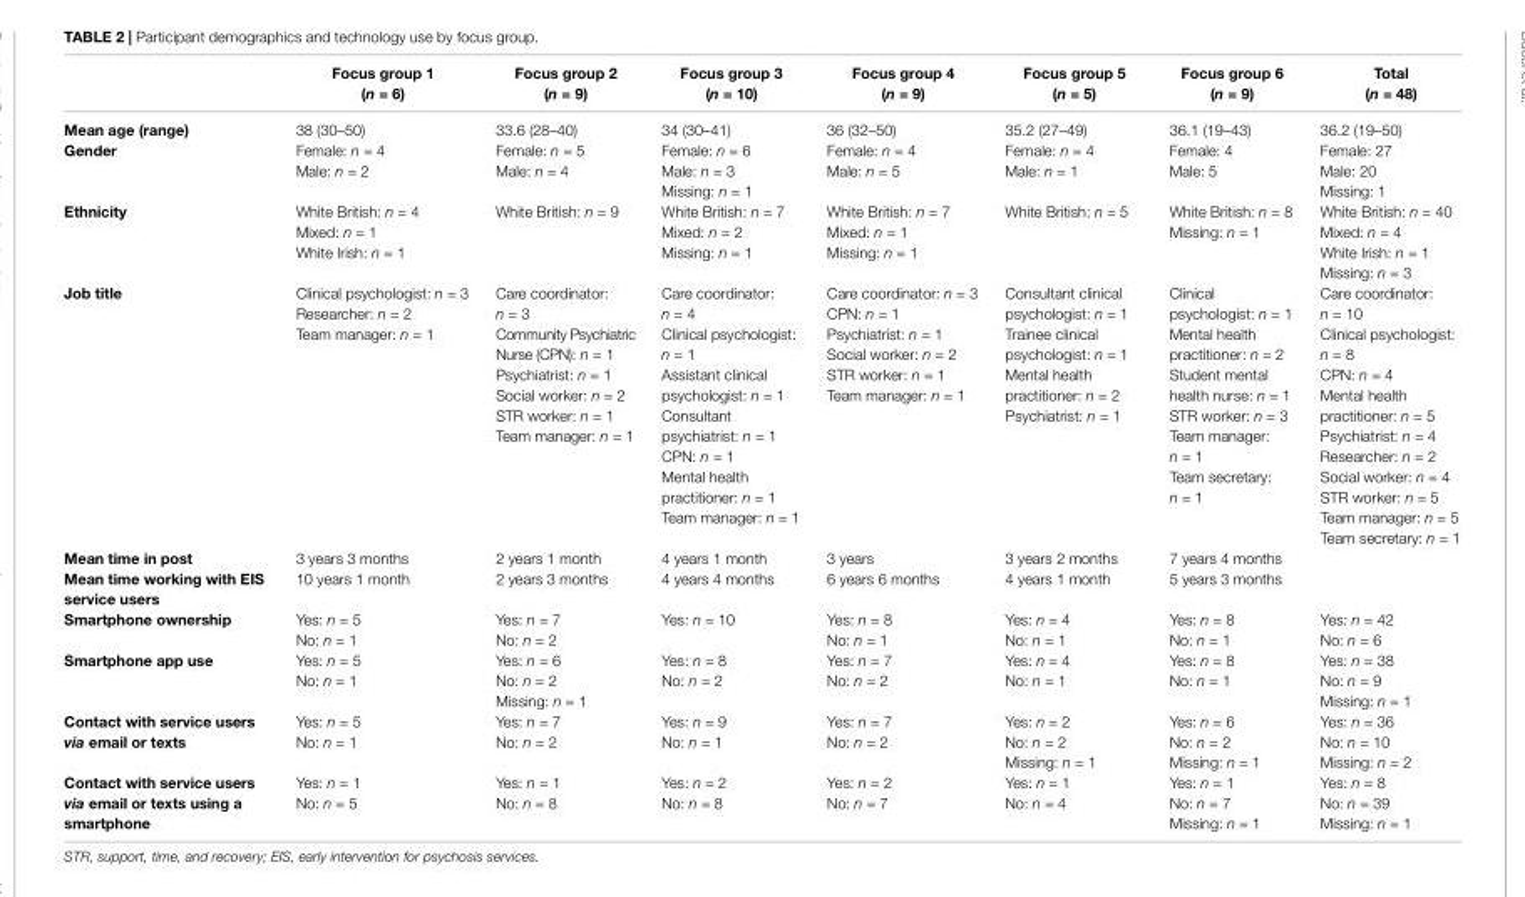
<table><thead><tr><td></td><td>Focus group 1 (n = 6)</td><td>Focus group 2 (n = 9)</td><td>Focus group 3 (n = 10)</td><td>Focus group 4 (n = 9)</td><td>Focus group 5 (n = 5)</td><td>Focus group 6 (n = 9)</td><td>Total (n = 48)</td></tr></thead><tbody><tr><td>Mean age (range)</td><td>38 (30–50)</td><td>33.6 (28–40)</td><td>34 (30–41)</td><td>36 (32–50)</td><td>35.2 (27–49)</td><td>36.1 (19–43)</td><td>36.2 (19–50)</td></tr><tr><td>Gender</td><td>Female: n = 4 Male: n = 2</td><td>Female: n = 5 Male: n = 4</td><td>Female: n = 6 Male: n = 3 Missing: n = 1</td><td>Female: n = 4 Male: n = 5</td><td>Female: n = 4 Male: n = 1</td><td>Female: 4 Male: 5</td><td>Female: 27 Male: 20 Missing: 1</td></tr><tr><td>Ethnicity</td><td>White British: n = 4 Mixed: n = 1 White Irish: n = 1</td><td>White British: n = 9</td><td>White British: n = 7 Mixed: n = 2 Missing: n = 1</td><td>White British: n = 7 Mixed: n = 1 Missing: n = 1</td><td>White British: n = 5</td><td>White British: n = 8 Missing: n = 1</td><td>White British: n = 40 Mixed: n = 4 White Irish: n = 1 Missing: n = 3</td></tr><tr><td>Job title</td><td>Clinical psychologist: n = 3 Researcher: n = 2 Team manager: n = 1</td><td>Care coordinator: n = 3 Community Psychiatric Nurse (CPN): n = 1 Psychiatrist: n = 1 Social worker: n = 2 STR worker: n = 1 Team manager: n = 1</td><td>Care coordinator: n = 4 Clinical psychologist: n = 1 Assistant clinical psychologist: n = 1 Consultant psychiatrist: n = 1 CPN: n = 1 Mental health practitioner: n = 1 Team manager: n = 1</td><td>Care coordinator: n = 3 CPN: n = 1 Psychiatrist: n = 1 Social worker: n = 2 STR worker: n = 1 Team manager: n = 1</td><td>Consultant clinical psychologist: n = 1 Trainee clinical psychologist: n = 1 Mental health practitioner: n = 2 Psychiatrist: n = 1</td><td>Clinical psychologist: n = 1 Mental health practitioner: n = 2 Student mental health nurse: n = 1 STR worker: n = 3 Team manager: n = 1 Team secretary: n = 1</td><td>Care coordinator: n = 10 Clinical psychologist: n = 8 CPN: n = 4 Mental health practitioner: n = 5 Psychiatrist: n = 4 Researcher: n = 2 Social worker: n = 4 STR worker: n = 5 Team manager: n = 5 Team secretary: n = 1</td></tr><tr><td>Mean time in post</td><td>3 years 3 months</td><td>2 years 1 month</td><td>4 years 1 month</td><td>3 years</td><td>3 years 2 months</td><td>7 years 4 months</td><td></td></tr><tr><td>Mean time working with EIS service users</td><td>10 years 1 month</td><td>2 years 3 months</td><td>4 years 4 months</td><td>6 years 6 months</td><td>4 years 1 month</td><td>5 years 3 months</td><td></td></tr><tr><td>Smartphone ownership</td><td>Yes: n = 5 No: n = 1</td><td>Yes: n = 7 No: n = 2</td><td>Yes: n = 10</td><td>Yes: n = 8 No: n = 1</td><td>Yes: n = 4 No: n = 1</td><td>Yes: n = 8 No: n = 1</td><td>Yes: n = 42 No: n = 6</td></tr><tr><td>Smartphone app use</td><td>Yes: n = 5 No: n = 1</td><td>Yes: n = 6 No: n = 2 Missing: n = 1</td><td>Yes: n = 8 No: n = 2</td><td>Yes: n = 7 No: n = 2</td><td>Yes: n = 4 No: n = 1</td><td>Yes: n = 8 No: n = 1</td><td>Yes: n = 38 No: n = 9 Missing: n = 1</td></tr><tr><td>Contact with service users via email or texts</td><td>Yes: n = 5 No: n = 1</td><td>Yes: n = 7 No: n = 2</td><td>Yes: n = 9 No: n = 1</td><td>Yes: n = 7 No: n = 2</td><td>Yes: n = 2 No: n = 2 Missing: n = 1</td><td>Yes: n = 6 No: n = 2 Missing: n = 1</td><td>Yes: n = 36 No: n = 10 Missing: n = 2</td></tr><tr><td>Contact with service users via email or texts using a smartphone</td><td>Yes: n = 1 No: n = 5</td><td>Yes: n = 1 No: n = 8</td><td>Yes: n = 2 No: n = 8</td><td>Yes: n = 2 No: n = 7</td><td>Yes: n = 1 No: n = 4</td><td>Yes: n = 1 No: n = 7 Missing: n = 1</td><td>Yes: n = 8 No: n = 39 Missing: n = 1</td></tr></tbody></table>